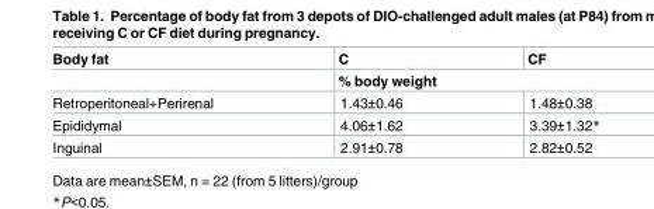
<table><thead><tr><td rowspan="2">Body fat</td><td>C</td><td>CF</td></tr><tr><td colspan="2">% body weight</td></tr></thead><tbody><tr><td>Retroperitoneal+Perirenal</td><td>1.43±0.46</td><td>1.48±0.38</td></tr><tr><td>Epididymal</td><td>4.06±1.62</td><td>3.39±1.32*</td></tr><tr><td>Inguinal</td><td>2.91±0.78</td><td>2.82±0.52</td></tr></tbody></table>